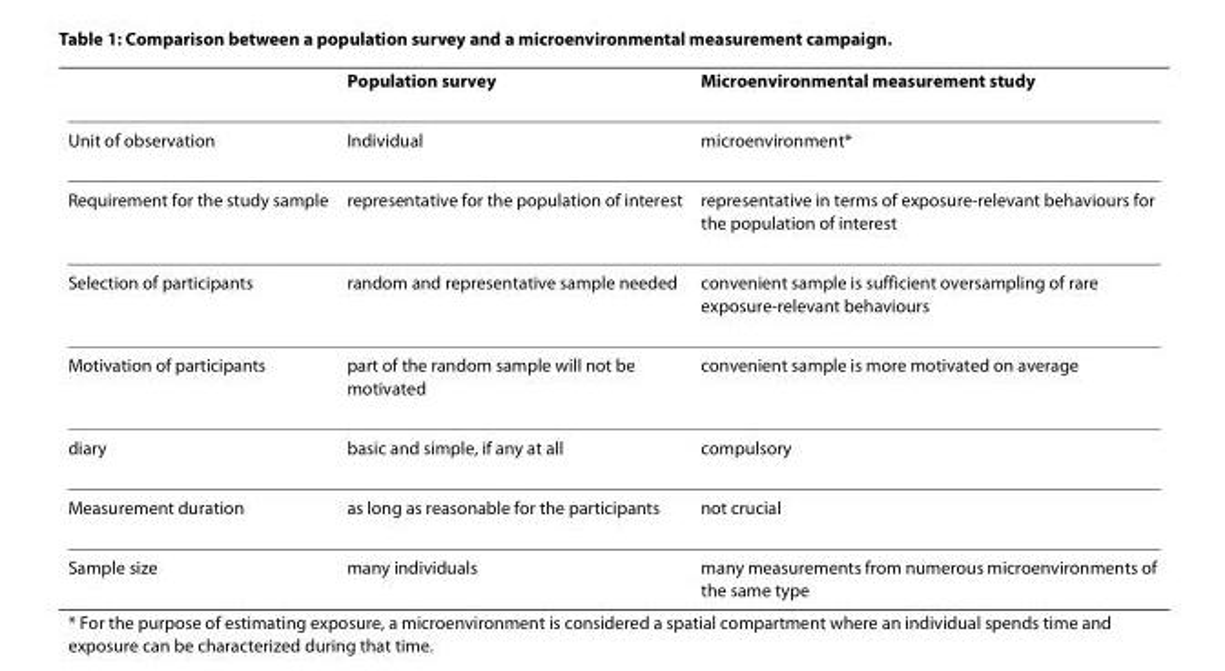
<table><thead><tr><td></td><td>Population survey</td><td>Microenvironmental measurement study</td></tr></thead><tbody><tr><td>Unit of observation</td><td>Individual</td><td>microenvironment*</td></tr><tr><td>Requirement for the study sample</td><td>representative for the population of interest</td><td>representative in terms of exposure-relevant behaviours for the population of interest</td></tr><tr><td>Selection of participants</td><td>random and representative sample needed</td><td>convenient sample is sufficient oversampling of rare exposure-relevant behaviours</td></tr><tr><td>Motivation of participants</td><td>part of the random sample will not be motivated</td><td>convenient sample is more motivated on average</td></tr><tr><td>diary</td><td>basic and simple, if any at all</td><td>compulsory</td></tr><tr><td>Measurement duration</td><td>as long as reasonable for the participants</td><td>not crucial</td></tr><tr><td>Sample size</td><td>many individuals</td><td>many measurements from numerous microenvironments of the same type</td></tr></tbody></table>